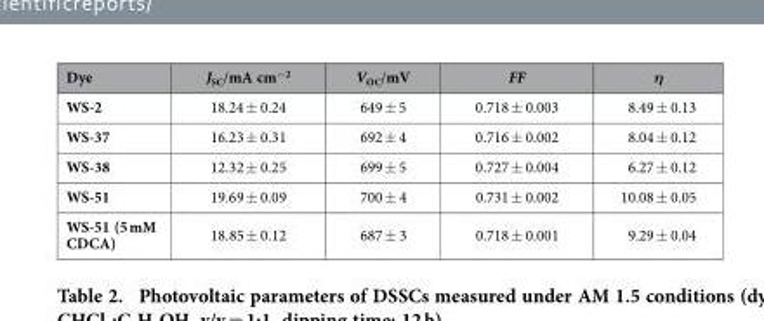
<table><thead><tr><td>Dye</td><td>J<sub>SC</sub>/mA cm<sup>−2</sup></td><td>V<sub>OC</sub>/mV</td><td>FF</td><td>η</td></tr></thead><tbody><tr><td>WS-2</td><td>18.24 ± 0.24</td><td>649 ± 5</td><td>0.718 ± 0.003</td><td>8.49 ± 0.13</td></tr><tr><td>WS-37</td><td>16.23 ± 0.31</td><td>692 ± 4</td><td>0.716 ± 0.002</td><td>8.04 ± 0.12</td></tr><tr><td>WS-38</td><td>12.32 ± 0.25</td><td>699 ± 5</td><td>0.727 ± 0.004</td><td>6.27 ± 0.12</td></tr><tr><td>WS-51</td><td>19.69 ± 0.09</td><td>700 ± 4</td><td>0.731 ± 0.002</td><td>10.08 ± 0.05</td></tr><tr><td>WS-51 (5 mM CDCA)</td><td>18.85 ± 0.12</td><td>687 ± 3</td><td>0.718 ± 0.001</td><td>9.29 ± 0.04</td></tr></tbody></table>